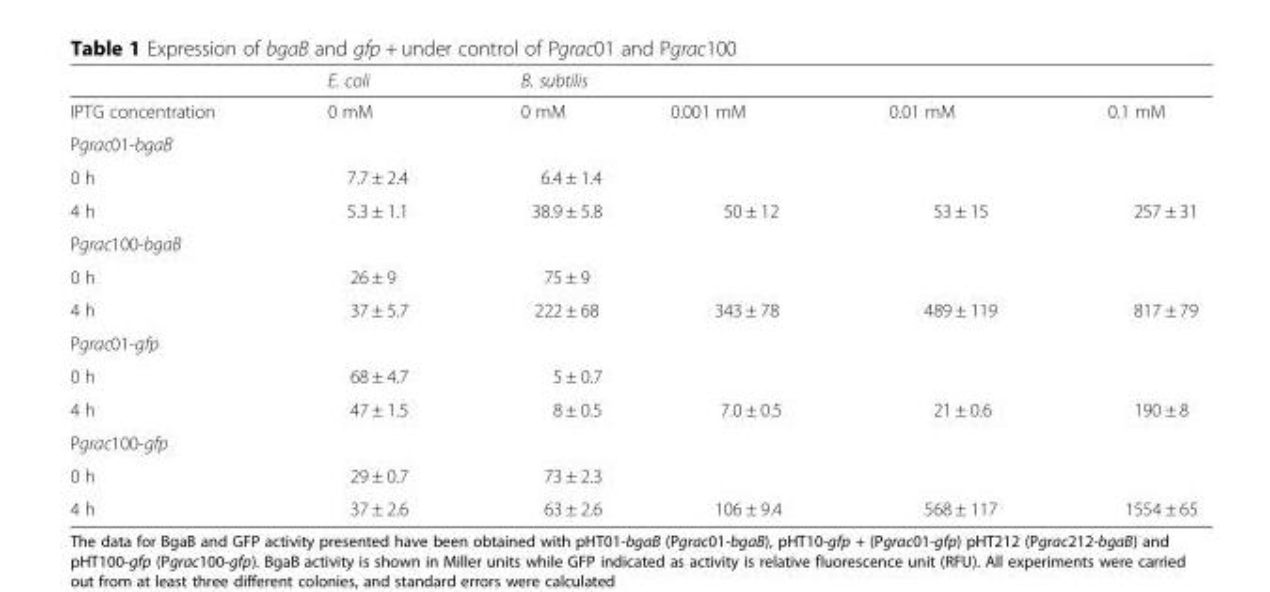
<table><thead><tr><td rowspan="2">IPTG concentration</td><td rowspan="2">E. coli 0 mM</td><td colspan="4">B. subtilis</td></tr><tr><td>0 mM</td><td>0.001 mM</td><td>0.01 mM</td><td>0.1 mM</td></tr></thead><tbody><tr><td colspan="6">Pgrac01-bgaB</td></tr><tr><td>0 h</td><td>7.7 ± 2.4</td><td>6.4 ± 1.4</td><td></td><td></td><td></td></tr><tr><td>4 h</td><td>5.3 ± 1.1</td><td>38.9 ± 5.8</td><td>50 ± 12</td><td>53 ± 15</td><td>257 ± 31</td></tr><tr><td colspan="6">Pgrac100-bgaB</td></tr><tr><td>0 h</td><td>26 ± 9</td><td>75 ± 9</td><td></td><td></td><td></td></tr><tr><td>4 h</td><td>37 ± 5.7</td><td>222 ± 68</td><td>343 ± 78</td><td>489 ± 119</td><td>817 ± 79</td></tr><tr><td colspan="6">Pgrac01-gfp</td></tr><tr><td>0 h</td><td>68 ± 4.7</td><td>5 ± 0.7</td><td></td><td></td><td></td></tr><tr><td>4 h</td><td>47 ± 1.5</td><td>8 ± 0.5</td><td>7.0 ± 0.5</td><td>21 ± 0.6</td><td>190 ± 8</td></tr><tr><td colspan="6">Pgrac100-gfp</td></tr><tr><td>0 h</td><td>29 ± 0.7</td><td>73 ± 2.3</td><td></td><td></td><td></td></tr><tr><td>4 h</td><td>37 ± 2.6</td><td>63 ± 2.6</td><td>106 ± 9.4</td><td>568 ± 117</td><td>1554 ± 65</td></tr></tbody></table>